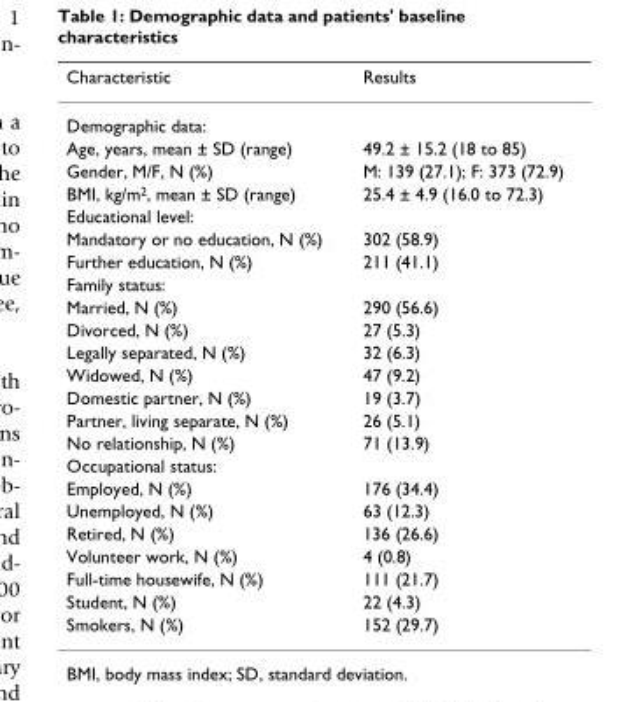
<table><thead><tr><td>Characteristic</td><td>Results</td></tr></thead><tbody><tr><td colspan="2">Demographic data:</td></tr><tr><td>Age, years, mean ± SD (range)</td><td>49.2 ± 15.2 (18 to 85)</td></tr><tr><td>Gender, M/F, N (%)</td><td>M: 139 (27.1); F: 373 (72.9)</td></tr><tr><td>BMI, kg/m<sup>2</sup>, mean ± SD (range)</td><td>25.4 ± 4.9 (16.0 to 72.3)</td></tr><tr><td colspan="2">Educational level:</td></tr><tr><td>Mandatory or no education, N (%)</td><td>302 (58.9)</td></tr><tr><td>Further education, N (%)</td><td>211 (41.1)</td></tr><tr><td colspan="2">Family status:</td></tr><tr><td>Married, N (%)</td><td>290 (56.6)</td></tr><tr><td>Divorced, N (%)</td><td>27 (5.3)</td></tr><tr><td>Legally separated, N (%)</td><td>32 (6.3)</td></tr><tr><td>Widowed, N (%)</td><td>47 (9.2)</td></tr><tr><td>Domestic partner, N (%)</td><td>19 (3.7)</td></tr><tr><td>Partner, living separate, N (%)</td><td>26 (5.1)</td></tr><tr><td>No relationship, N (%)</td><td>71 (13.9)</td></tr><tr><td colspan="2">Occupational status:</td></tr><tr><td>Employed, N (%)</td><td>176 (34.4)</td></tr><tr><td>Unemployed, N (%)</td><td>63 (12.3)</td></tr><tr><td>Retired, N (%)</td><td>136 (26.6)</td></tr><tr><td>Volunteer work, N (%)</td><td>4 (0.8)</td></tr><tr><td>Full-time housewife, N (%)</td><td>111 (21.7)</td></tr><tr><td>Student, N (%)</td><td>22 (4.3)</td></tr><tr><td>Smokers, N (%)</td><td>152 (29.7)</td></tr></tbody></table>